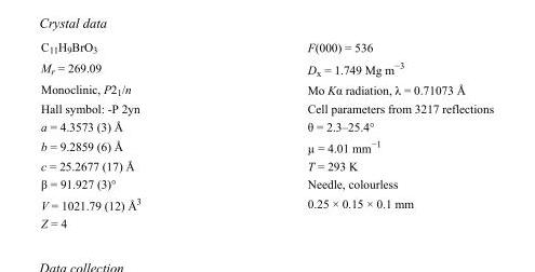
<table><tbody><tr><td>C<sub>11</sub>H<sub>9</sub>BrO<sub>3</sub></td><td>F(000) = 536</td></tr><tr><td>M<sub>r</sub> = 269.09</td><td>D<sub>x</sub> = 1.749 Mg m<sup>−3</sup></td></tr><tr><td>Monoclinic, P2<sub>1</sub>/n</td><td>Mo Kα radiation, λ = 0.71073 Å</td></tr><tr><td>Hall symbol: -P 2yn</td><td>Cell parameters from 3217 reflections</td></tr><tr><td>a = 4.3573 (3) Å</td><td>θ = 2.3–25.4°</td></tr><tr><td>b = 9.2859 (6) Å</td><td>µ = 4.01 mm<sup>−1</sup></td></tr><tr><td>c = 25.2677 (17) Å</td><td>T = 293 K</td></tr><tr><td>β = 91.927 (3)°</td><td>Needle, colourless</td></tr><tr><td>V = 1021.79 (12) Å<sup>3</sup></td><td>0.25 × 0.15 × 0.1 mm</td></tr><tr><td>Z = 4</td><td></td></tr></tbody></table>